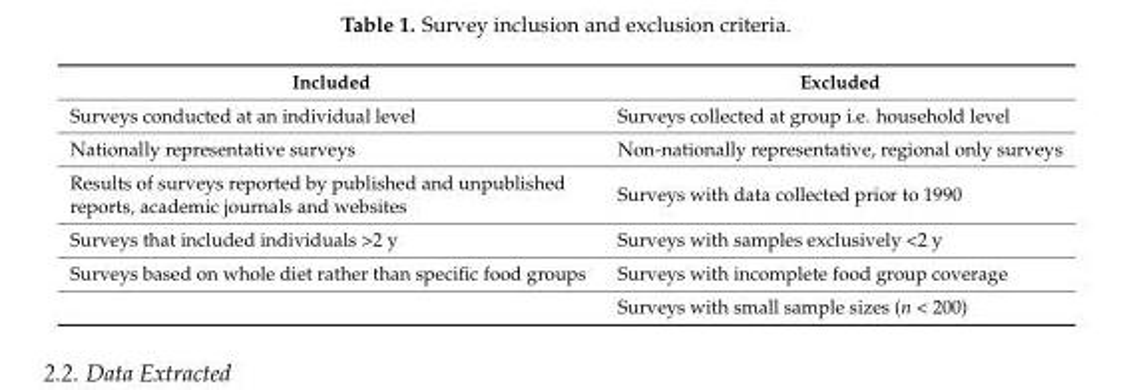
<table><thead><tr><td>Included</td><td>Excluded</td></tr></thead><tbody><tr><td>Surveys conducted at an individual level</td><td>Surveys collected at group i.e. household level</td></tr><tr><td>Nationally representative surveys</td><td>Non-nationally representative, regional only surveys</td></tr><tr><td>Results of surveys reported by published and unpublished reports, academic journals and websites</td><td>Surveys with data collected prior to 1990</td></tr><tr><td>Surveys that included individuals &gt;2 y</td><td>Surveys with samples exclusively &lt;2 y</td></tr><tr><td rowspan="2">Surveys based on whole diet rather than specific food groups</td><td>Surveys with incomplete food group coverage</td></tr><tr><td>Surveys with small sample sizes (n &lt; 200)</td></tr></tbody></table>